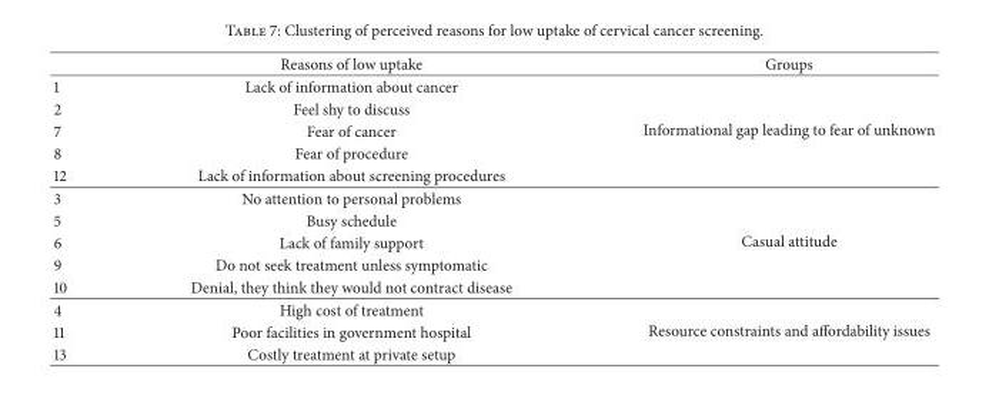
<table><thead><tr><td></td><td>Reasons of low uptake</td><td>Groups</td></tr></thead><tbody><tr><td>1</td><td>Lack of information about cancer</td><td rowspan="5">Informational gap leading to fear of unknown</td></tr><tr><td>2</td><td>Feel shy to discuss</td></tr><tr><td>7</td><td>Fear of cancer</td></tr><tr><td>8</td><td>Fear of procedure</td></tr><tr><td>12</td><td>Lack of information about screening procedures</td></tr><tr><td>3</td><td>No attention to personal problems</td><td rowspan="5">Casual attitude</td></tr><tr><td>5</td><td>Busy schedule</td></tr><tr><td>6</td><td>Lack of family support</td></tr><tr><td>9</td><td>Do not seek treatment unless symptomatic</td></tr><tr><td>10</td><td>Denial, they think they would not contract disease</td></tr><tr><td>4</td><td>High cost of treatment</td><td rowspan="3">Resource constraints and affordability issues</td></tr><tr><td>11</td><td>Poor facilities in government hospital</td></tr><tr><td>13</td><td>Costly treatment at private setup</td></tr></tbody></table>